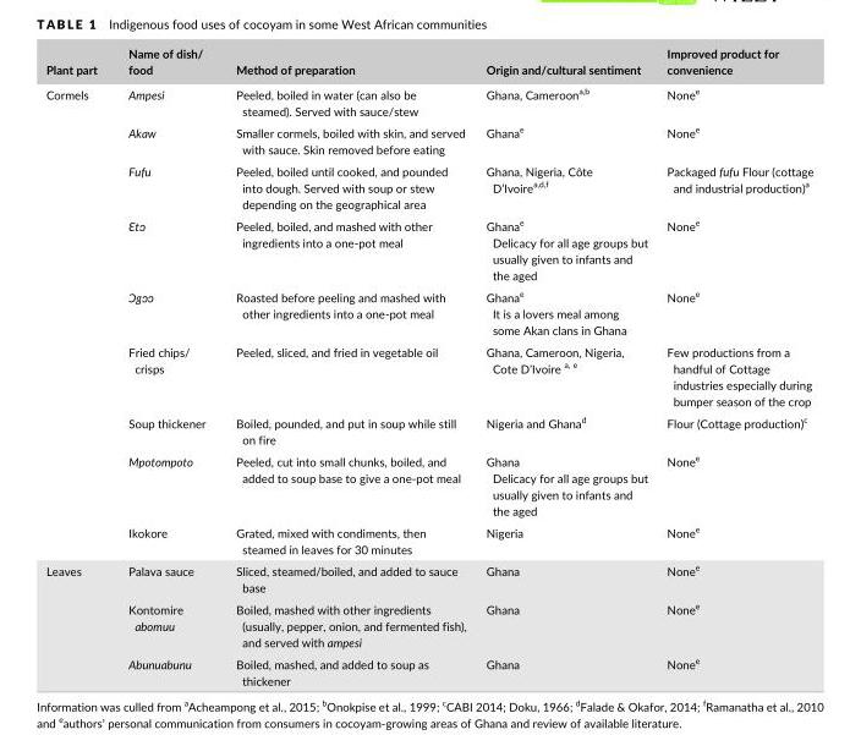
<table><thead><tr><td>Plant part</td><td>Name of dish/ food</td><td>Method of preparation</td><td>Origin and/cultural sentiment</td><td>Improved product for convenience</td></tr></thead><tbody><tr><td rowspan="9">Cormels</td><td>Ampesi</td><td>Peeled, boiled in water (can also be steamed). Served with sauce/stew</td><td>Ghana, Cameroon<sup>a,</sup>b</td><td>None<sup>e</sup></td></tr><tr><td>Akaw</td><td>Smaller cormels, boiled with skin, and served with sauce. Skin removed before eating</td><td>Ghana<sup>e</sup></td><td>None<sup>e</sup></td></tr><tr><td>Fufu</td><td>Peeled, boiled until cooked, and pounded into dough. Served with soup or stew depending on the geographical area</td><td>Ghana, Nigeria, Côte D’Ivoire<sup>a,</sup>d<sup>,</sup>f</td><td>Packaged fufu Flour (cottage and industrial production)<sup>a</sup></td></tr><tr><td>Ɛtͻ</td><td>Peeled, boiled, and mashed with other ingredients into a one- pot meal</td><td>Ghana<sup>e</sup> Delicacy for all age groups but usually given to infants and the aged</td><td>None<sup>e</sup></td></tr><tr><td>Ɔgͻͻ</td><td>Roasted before peeling and mashed with other ingredients into a one- pot meal</td><td>Ghana<sup>e</sup> It is a lovers meal among some Akan clans in Ghana</td><td>None<sup>e</sup></td></tr><tr><td>Fried chips/ crisps</td><td>Peeled, sliced, and fried in vegetable oil</td><td>Ghana, Cameroon, Nigeria, Cote D’Ivoire a<sup>,</sup> e</td><td>Few productions from a handful of Cottage industries especially during bumper season of the crop</td></tr><tr><td>Soup thickener</td><td>Boiled, pounded, and put in soup while still on fire</td><td>Nigeria and Ghana<sup>d</sup></td><td>Flour (Cottage production)<sup>c</sup></td></tr><tr><td>Mpotompoto</td><td>Peeled, cut into small chunks, boiled, and added to soup base to give a one- pot meal</td><td>Ghana Delicacy for all age groups but usually given to infants and the aged</td><td>None<sup>e</sup></td></tr><tr><td>Ikokore</td><td>Grated, mixed with condiments, then steamed in leaves for 30 minutes</td><td>Nigeria</td><td>None<sup>e</sup></td></tr><tr><td rowspan="3">Leaves</td><td>Palava sauce</td><td>Sliced, steamed/boiled, and added to sauce base</td><td>Ghana</td><td>None<sup>e</sup></td></tr><tr><td>Kontomire abomuu</td><td>Boiled, mashed with other ingredients (usually, pepper, onion, and fermented fish), and served with ampesi</td><td>Ghana</td><td>None<sup>e</sup></td></tr><tr><td>Abunuabunu</td><td>Boiled, mashed, and added to soup as thickener</td><td>Ghana</td><td>None<sup>e</sup></td></tr></tbody></table>